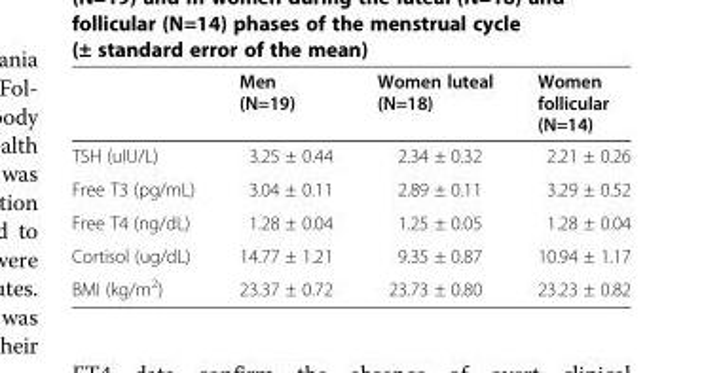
<table><thead><tr><td></td><td>Men (N=19)</td><td>Women luteal (N=18)</td><td>Women follicular (N=14)</td></tr></thead><tbody><tr><td>TSH (uIU/L)</td><td>3.25 ± 0.44</td><td>2.34 ± 0.32</td><td>2.21 ± 0.26</td></tr><tr><td>Free T3 (pg/mL)</td><td>3.04 ± 0.11</td><td>2.89 ± 0.11</td><td>3.29 ± 0.52</td></tr><tr><td>Free T4 (ng/dL)</td><td>1.28 ± 0.04</td><td>1.25 ± 0.05</td><td>1.28 ± 0.04</td></tr><tr><td>Cortisol (ug/dL)</td><td>14.77 ± 1.21</td><td>9.35 ± 0.87</td><td>10.94 ± 1.17</td></tr><tr><td>BMI (kg/m<sup>2</sup>)</td><td>23.37 ± 0.72</td><td>23.73 ± 0.80</td><td>23.23 ± 0.82</td></tr></tbody></table>